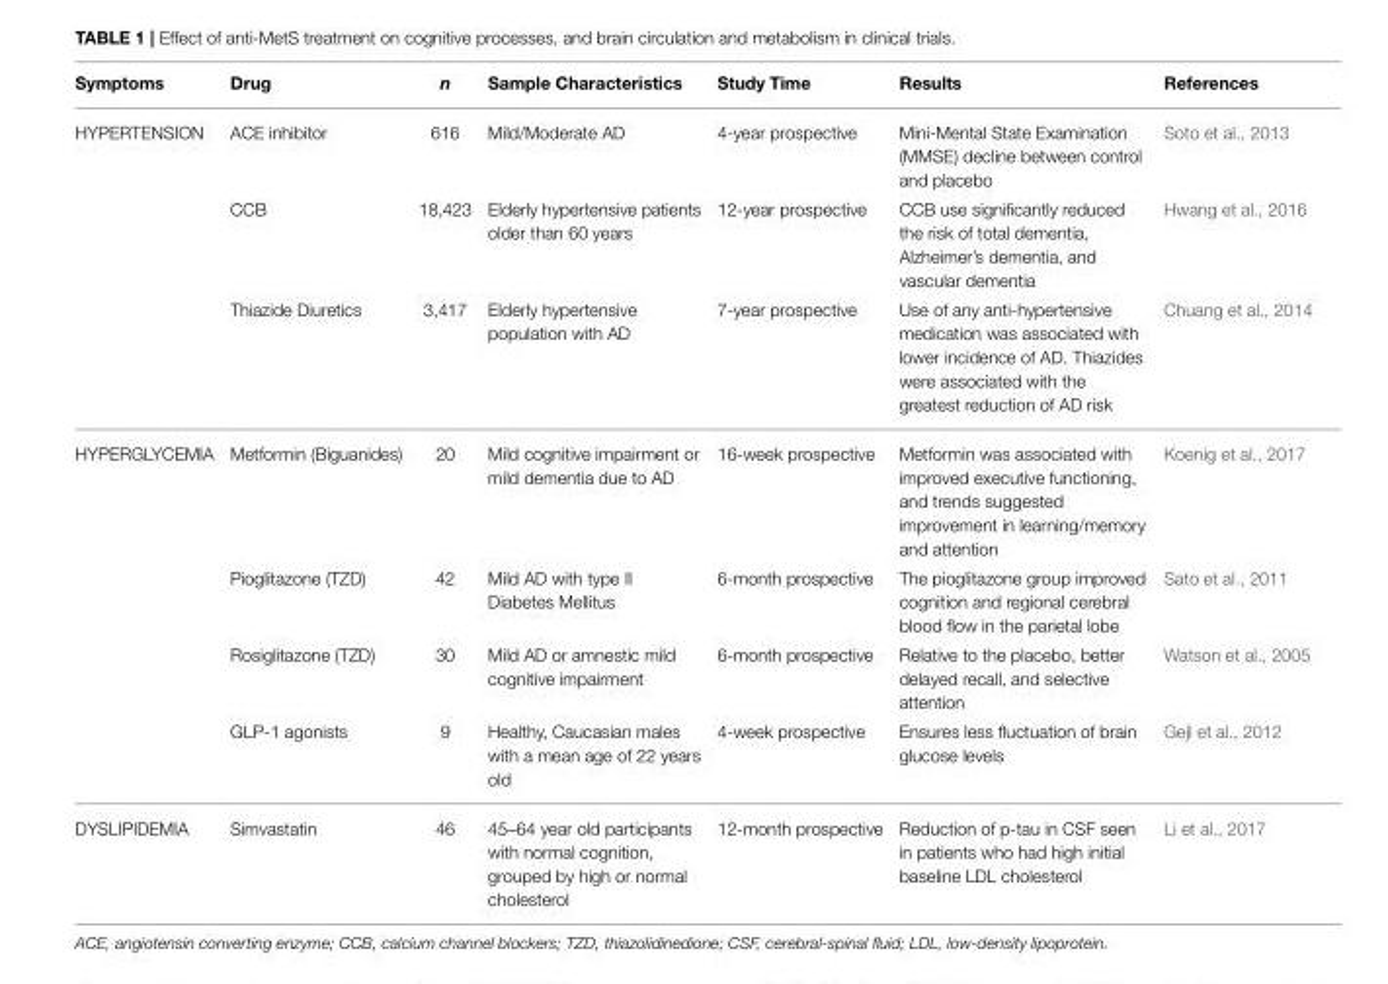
<table><thead><tr><td>Symptoms</td><td>Drug</td><td>n</td><td>Sample Characteristics</td><td>Study Time</td><td>Results</td><td>References</td></tr></thead><tbody><tr><td rowspan="3">HYPERTENSION</td><td>ACE inhibitor</td><td>616</td><td>Mild/Moderate AD</td><td>4-year prospective</td><td>Mini-Mental State Examination (MMSE) decline between control and placebo</td><td>Soto et al., 2013</td></tr><tr><td>CCB</td><td>18,423</td><td>Elderly hypertensive patients older than 60 years</td><td>12-year prospective</td><td>CCB use significantly reduced the risk of total dementia, Alzheimer’s dementia, and vascular dementia</td><td>Hwang et al., 2016</td></tr><tr><td>Thiazide Diuretics</td><td>3,417</td><td>Elderly hypertensive population with AD</td><td>7-year prospective</td><td>Use of any anti-hypertensive medication was associated with lower incidence of AD. Thiazides were associated with the greatest reduction of AD risk</td><td>Chuang et al., 2014</td></tr><tr><td rowspan="4">HYPERGLYCEMIA</td><td>Metformin (Biguanides)</td><td>20</td><td>Mild cognitive impairment or mild dementia due to AD</td><td>16-week prospective</td><td>Metformin was associated with improved executive functioning, and trends suggested improvement in learning/memory and attention</td><td>Koenig et al., 2017</td></tr><tr><td>Pioglitazone (TZD)</td><td>42</td><td>Mild AD with type II Diabetes Mellitus</td><td>6-month prospective</td><td>The pioglitazone group improved cognition and regional cerebral blood flow in the parietal lobe</td><td>Sato et al., 2011</td></tr><tr><td>Rosiglitazone (TZD)</td><td>30</td><td>Mild AD or amnestic mild cognitive impairment</td><td>6-month prospective</td><td>Relative to the placebo, better delayed recall, and selective attention</td><td>Watson et al., 2005</td></tr><tr><td>GLP-1 agonists</td><td>9</td><td>Healthy, Caucasian males with a mean age of 22 years old</td><td>4-week prospective</td><td>Ensures less fluctuation of brain glucose levels</td><td>Gejl et al., 2012</td></tr><tr><td>DYSLIPIDEMIA</td><td>Simvastatin</td><td>46</td><td>45–64 year old participants with normal cognition, grouped by high or normal cholesterol</td><td>12-month prospective</td><td>Reduction of p-tau in CSF seen in patients who had high initial baseline LDL cholesterol</td><td>Li et al., 2017</td></tr></tbody></table>